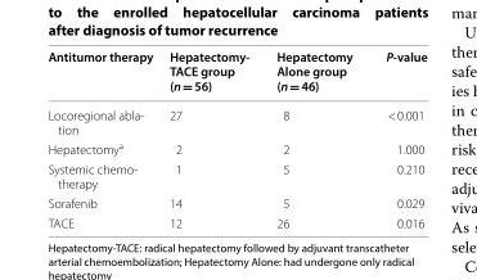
<table><thead><tr><td>Antitumor therapy</td><td>Hepatectomy‑ TACE group (n = 56)</td><td>Hepatectomy Alone group (n = 46)</td><td>P‑value</td></tr></thead><tbody><tr><td>Locoregional abla‑ tion</td><td>27</td><td>8</td><td>&lt; 0.001</td></tr><tr><td>Hepatectomy<sup>a</sup></td><td>2</td><td>2</td><td>1.000</td></tr><tr><td>Systemic chemo‑ therapy</td><td>1</td><td>5</td><td>0.210</td></tr><tr><td>Sorafenib</td><td>14</td><td>5</td><td>0.029</td></tr><tr><td>TACE</td><td>12</td><td>26</td><td>0.016</td></tr></tbody></table>